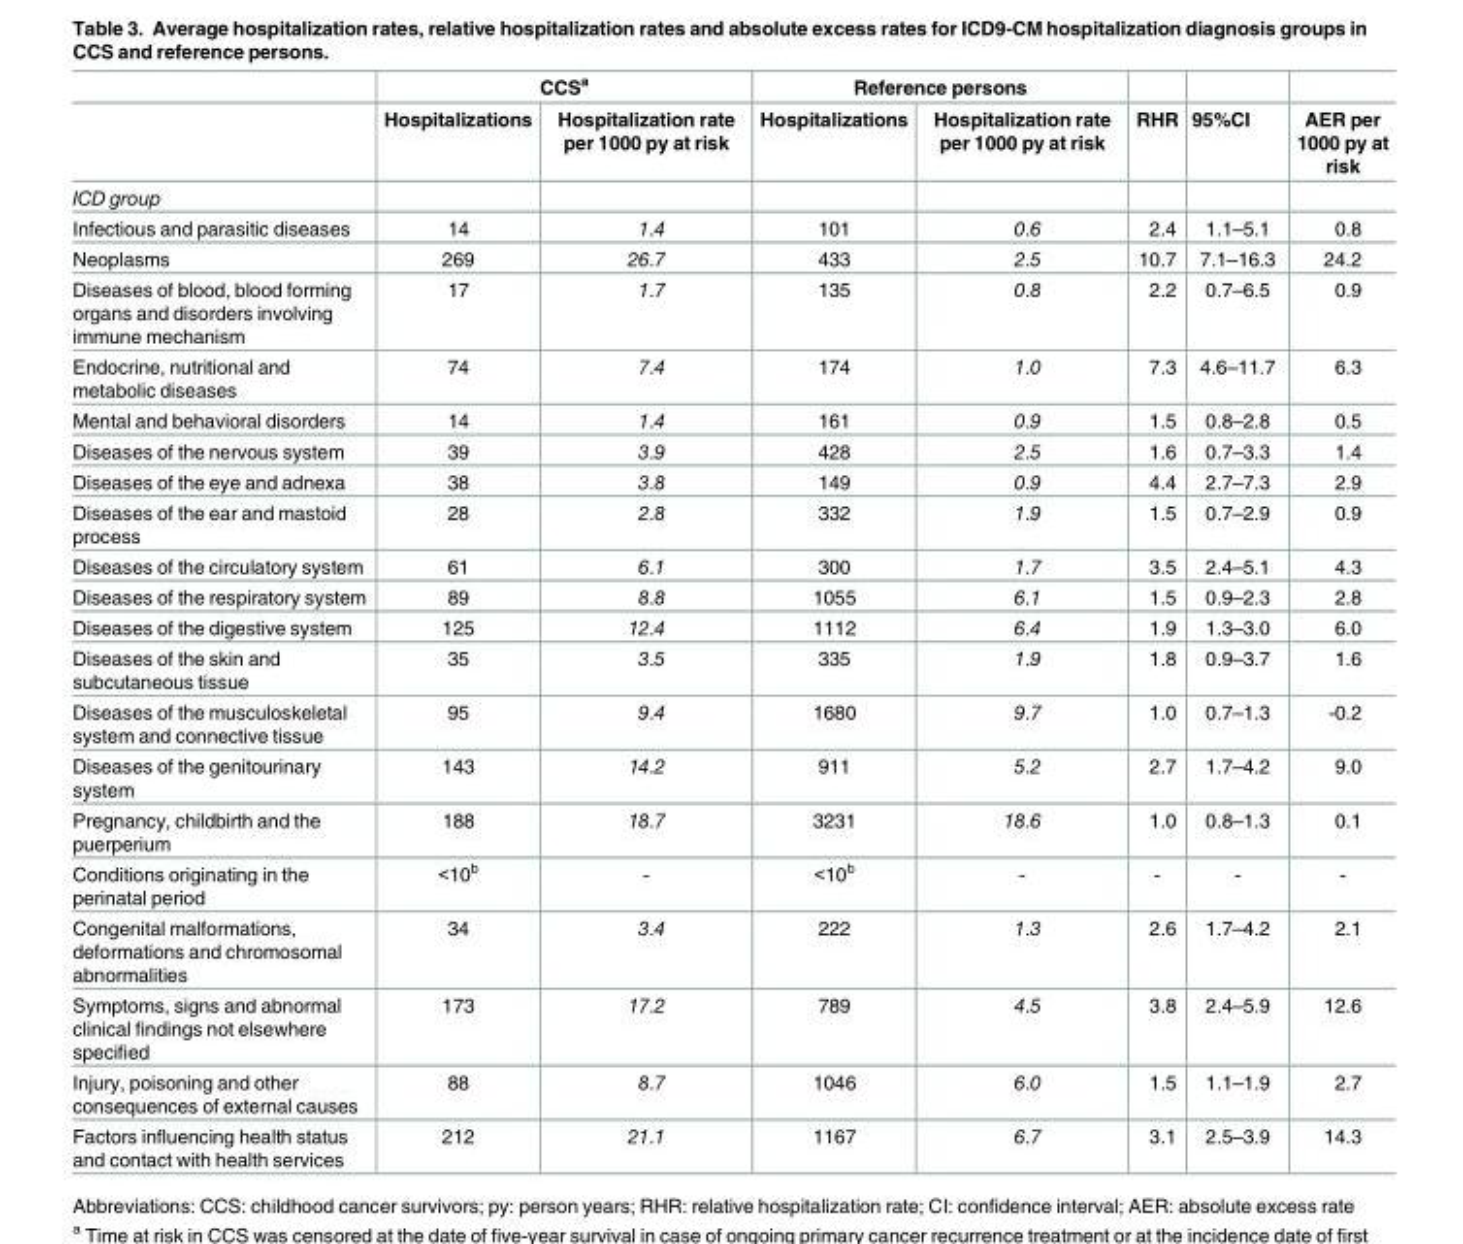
<table><thead><tr><td rowspan="2"></td><td colspan="2">CCS<sup>a</sup></td><td colspan="2">Reference persons</td><td rowspan="2">RHR</td><td rowspan="2">95%CI</td><td rowspan="2">AER per 1000 py at risk</td></tr><tr><td>Hospitalizations</td><td>Hospitalization rate per 1000 py at risk</td><td>Hospitalizations</td><td>Hospitalization rate per 1000 py at risk</td></tr></thead><tbody><tr><td colspan="8">ICD group</td></tr><tr><td>Infectious and parasitic diseases</td><td>14</td><td>1.4</td><td>101</td><td>0.6</td><td>2.4</td><td>1.1–5.1</td><td>0.8</td></tr><tr><td>Neoplasms</td><td>269</td><td>26.7</td><td>433</td><td>2.5</td><td>10.7</td><td>7.1–16.3</td><td>24.2</td></tr><tr><td>Diseases of blood, blood forming organs and disorders involving immune mechanism</td><td>17</td><td>1.7</td><td>135</td><td>0.8</td><td>2.2</td><td>0.7–6.5</td><td>0.9</td></tr><tr><td>Endocrine, nutritional and metabolic diseases</td><td>74</td><td>7.4</td><td>174</td><td>1.0</td><td>7.3</td><td>4.6–11.7</td><td>6.3</td></tr><tr><td>Mental and behavioral disorders</td><td>14</td><td>1.4</td><td>161</td><td>0.9</td><td>1.5</td><td>0.8–2.8</td><td>0.5</td></tr><tr><td>Diseases of the nervous system</td><td>39</td><td>3.9</td><td>428</td><td>2.5</td><td>1.6</td><td>0.7–3.3</td><td>1.4</td></tr><tr><td>Diseases of the eye and adnexa</td><td>38</td><td>3.8</td><td>149</td><td>0.9</td><td>4.4</td><td>2.7–7.3</td><td>2.9</td></tr><tr><td>Diseases of the ear and mastoid process</td><td>28</td><td>2.8</td><td>332</td><td>1.9</td><td>1.5</td><td>0.7–2.9</td><td>0.9</td></tr><tr><td>Diseases of the circulatory system</td><td>61</td><td>6.1</td><td>300</td><td>1.7</td><td>3.5</td><td>2.4–5.1</td><td>4.3</td></tr><tr><td>Diseases of the respiratory system</td><td>89</td><td>8.8</td><td>1055</td><td>6.1</td><td>1.5</td><td>0.9–2.3</td><td>2.8</td></tr><tr><td>Diseases of the digestive system</td><td>125</td><td>12.4</td><td>1112</td><td>6.4</td><td>1.9</td><td>1.3–3.0</td><td>6.0</td></tr><tr><td>Diseases of the skin and subcutaneous tissue</td><td>35</td><td>3.5</td><td>335</td><td>1.9</td><td>1.8</td><td>0.9–3.7</td><td>1.6</td></tr><tr><td>Diseases of the musculoskeletal system and connective tissue</td><td>95</td><td>9.4</td><td>1680</td><td>9.7</td><td>1.0</td><td>0.7–1.3</td><td>-0.2</td></tr><tr><td>Diseases of the genitourinary system</td><td>143</td><td>14.2</td><td>911</td><td>5.2</td><td>2.7</td><td>1.7–4.2</td><td>9.0</td></tr><tr><td>Pregnancy, childbirth and the puerperium</td><td>188</td><td>18.7</td><td>3231</td><td>18.6</td><td>1.0</td><td>0.8–1.3</td><td>0.1</td></tr><tr><td>Conditions originating in the perinatal period</td><td>&lt;10<sup>b</sup></td><td>-</td><td>&lt;10<sup>b</sup></td><td>-</td><td>-</td><td>-</td><td>-</td></tr><tr><td>Congenital malformations, deformations and chromosomal abnormalities</td><td>34</td><td>3.4</td><td>222</td><td>1.3</td><td>2.6</td><td>1.7–4.2</td><td>2.1</td></tr><tr><td>Symptoms, signs and abnormal clinical findings not elsewhere specified</td><td>173</td><td>17.2</td><td>789</td><td>4.5</td><td>3.8</td><td>2.4–5.9</td><td>12.6</td></tr><tr><td>Injury, poisoning and other consequences of external causes</td><td>88</td><td>8.7</td><td>1046</td><td>6.0</td><td>1.5</td><td>1.1–1.9</td><td>2.7</td></tr><tr><td>Factors influencing health status and contact with health services</td><td>212</td><td>21.1</td><td>1167</td><td>6.7</td><td>3.1</td><td>2.5–3.9</td><td>14.3</td></tr></tbody></table>